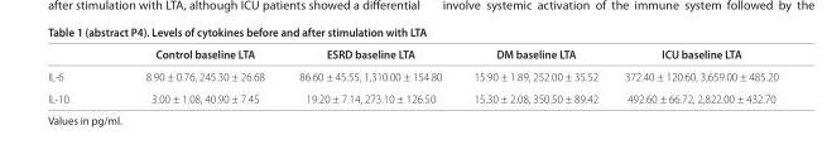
<table><thead><tr><td></td><td>Control baseline LTA</td><td>ESRD baseline LTA</td><td>DM baseline LTA</td><td>ICU baseline LTA</td></tr></thead><tbody><tr><td>IL-6</td><td>8.90 ± 0.76, 245.30 ± 26.68</td><td>86.60 ± 45.55, 1,310.00 ± 154.80</td><td>15.90 ± 1.89, 252.00 ± 35.52</td><td>372.40 ± 120.60, 3,659.00 ± 485.20</td></tr><tr><td>IL-10</td><td>3.00 ± 1.08, 40.90 ± 7.45</td><td>19.20 ± 7.14, 273.10 ± 126.50</td><td>15.30 ± 2.08, 350.50 ± 89.42</td><td>492.60 ± 66.72, 2,822.00 ± 432.70</td></tr></tbody></table>